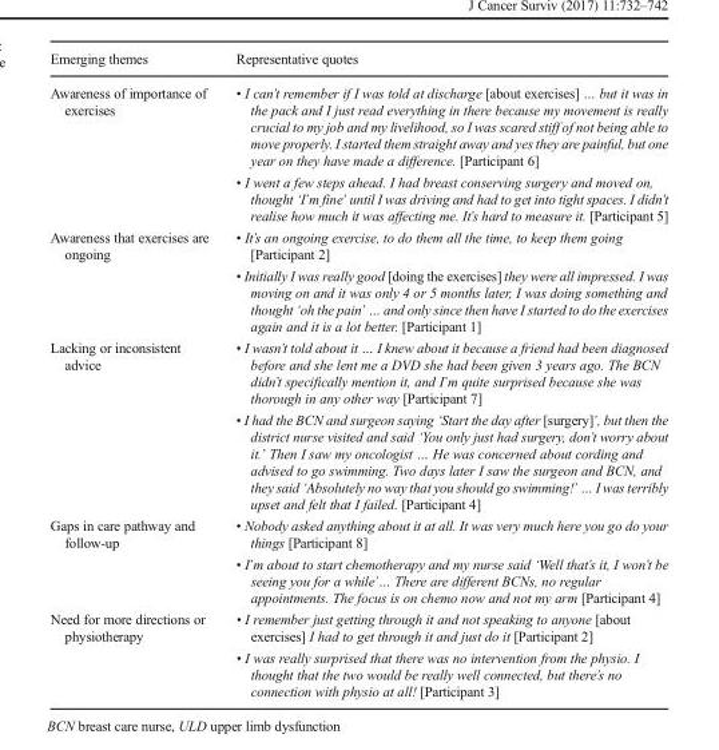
<table><thead><tr><td>Emerging themes</td><td>Representative quotes</td></tr></thead><tbody><tr><td>Awareness of importance of exercises</td><td>• I can’t remember if I was told at discharge [about exercises] … but it was in the pack and I just read everything in there because my movement is really crucial to my job and my livelihood, so I was scared stiff of not being able to move properly. I started them straight away and yes they are painful, but one year on they have made a difference. [Participant 6] • I went a few steps ahead. I had breast conserving surgery and moved on, thought ‘I’m fine’ until I was driving and had to get into tight spaces. I didn’t realise how much it was affecting me. It’s hard to measure it. [Participant 5]</td></tr><tr><td>Awareness that exercises are ongoing</td><td>• It’s an ongoing exercise, to do them all the time, to keep them going [Participant 2] • Initially I was really good [doing the exercises] they were all impressed. I was moving on and it was only 4 or 5 months later, I was doing something and thought ‘oh the pain’ … and only since then have I started to do the exercises again and it is a lot better. [Participant 1]</td></tr><tr><td>Lacking or inconsistent advice</td><td>• I wasn’t told about it … I knew about it because a friend had been diagnosed before and she lent me a DVD she had been given 3 years ago. The BCN didn’t specifically mention it, and I’m quite surprised because she was thorough in any other way [Participant 7] • I had the BCN and surgeon saying ‘Start the day after [surgery]’, but then the district nurse visited and said ‘You only just had surgery, don’t worry about it.’ Then I saw my oncologist … He was concerned about cording and advised to go swimming. Two days later I saw the surgeon and BCN, and they said ‘Absolutely no way that you should go swimming!’ … I was terribly upset and felt that I failed. [Participant 4]</td></tr><tr><td>Gaps in care pathway and follow-up</td><td>• Nobody asked anything about it at all. It was very much here you go do your things [Participant 8] • I’m about to start chemotherapy and my nurse said ‘Well that’s it, I won’t be seeing you for a while’… There are different BCNs, no regular appointments. The focus is on chemo now and not my arm [Participant 4]</td></tr><tr><td>Need for more directions or physiotherapy</td><td>• I remember just getting through it and not speaking to anyone [about exercises] I had to get through it and just do it [Participant 2] • I was really surprised that there was no intervention from the physio. I thought that the two would be really well connected, but there’s no connection with physio at all! [Participant 3]</td></tr></tbody></table>